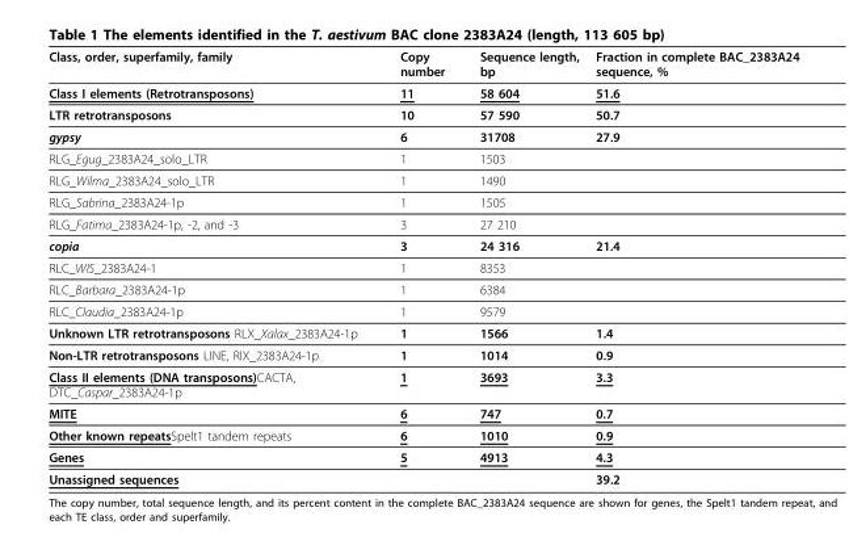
<table><thead><tr><td>Class, order, superfamily, family</td><td>Copy number</td><td>Sequence length, bp</td><td>Fraction in complete BAC_2383A24 sequence, %</td></tr></thead><tbody><tr><td>Class I elements (Retrotransposons)</td><td>11</td><td>58 604</td><td>51.6</td></tr><tr><td>LTR retrotransposons</td><td>10</td><td>57 590</td><td>50.7</td></tr><tr><td>gypsy</td><td>6</td><td>31708</td><td>27.9</td></tr><tr><td>RLG_Egug_2383A24_solo_LTR</td><td>1</td><td>1503</td><td></td></tr><tr><td>RLG_Wilma_2383A24_solo_LTR</td><td>1</td><td>1490</td><td></td></tr><tr><td>RLG_Sabrina_2383A24-1p</td><td>1</td><td>1505</td><td></td></tr><tr><td>RLG_Fatima_2383A24-1p, -2, and -3</td><td>3</td><td>27 210</td><td></td></tr><tr><td>copia</td><td>3</td><td>24 316</td><td>21.4</td></tr><tr><td>RLC_WIS_2383A24-1</td><td>1</td><td>8353</td><td></td></tr><tr><td>RLC_Barbara_2383A24-1p</td><td>1</td><td>6384</td><td></td></tr><tr><td>RLC_Claudia_2383A24-1p</td><td>1</td><td>9579</td><td></td></tr><tr><td>Unknown LTR retrotransposons RLX_Xalax_2383A24-1p</td><td>1</td><td>1566</td><td>1.4</td></tr><tr><td>Non-LTR retrotransposons LINE, RIX_2383A24-1p</td><td>1</td><td>1014</td><td>0.9</td></tr><tr><td>Class II elements (DNA transposons)CACTA, DTC_Caspar_2383A24-1p</td><td>1</td><td>3693</td><td>3.3</td></tr><tr><td>MITE</td><td>6</td><td>747</td><td>0.7</td></tr><tr><td>Other known repeatsSpelt1 tandem repeats</td><td>6</td><td>1010</td><td>0.9</td></tr><tr><td>Genes</td><td>5</td><td>4913</td><td>4.3</td></tr><tr><td>Unassigned sequences</td><td></td><td></td><td>39.2</td></tr></tbody></table>